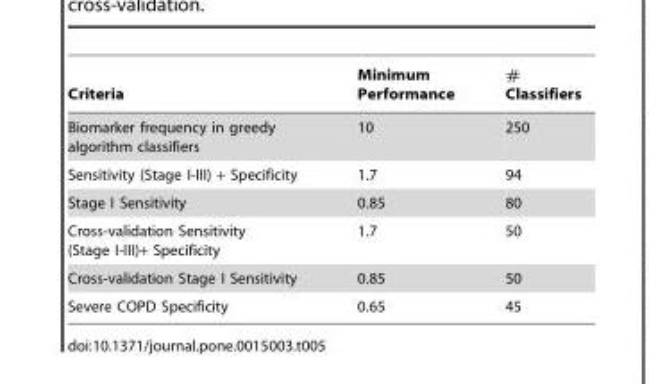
<table><thead><tr><td>Criteria</td><td>Minimum Performance</td><td># Classifiers</td></tr></thead><tbody><tr><td>Biomarker frequency in greedy algorithm classifiers</td><td>10</td><td>250</td></tr><tr><td>Sensitivity (Stage I-III) + Specificity</td><td>1.7</td><td>94</td></tr><tr><td>Stage I Sensitivity</td><td>0.85</td><td>80</td></tr><tr><td>Cross-validation Sensitivity (Stage I-III)+ Specificity</td><td>1.7</td><td>50</td></tr><tr><td>Cross-validation Stage I Sensitivity</td><td>0.85</td><td>50</td></tr><tr><td>Severe COPD Specificity</td><td>0.65</td><td>45</td></tr></tbody></table>